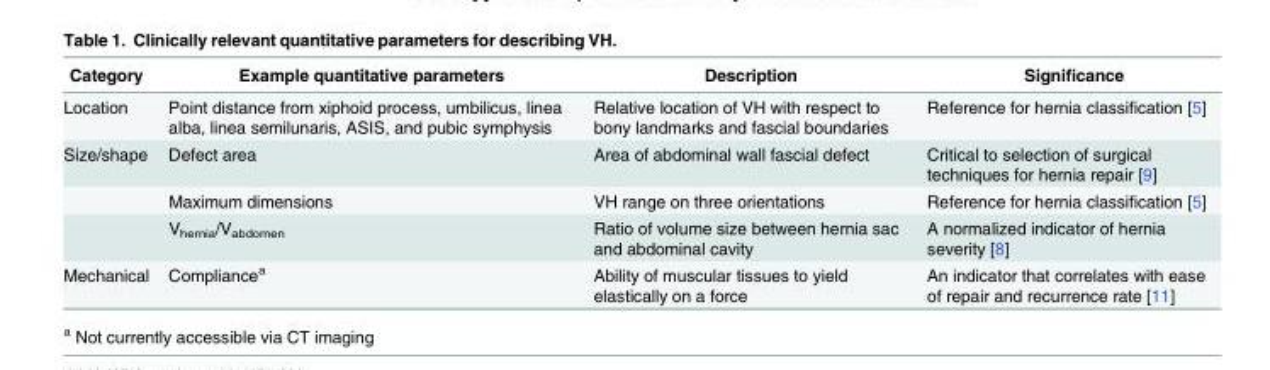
<table><thead><tr><td>Category</td><td>Example quantitative parameters</td><td>Description</td><td>Significance</td></tr></thead><tbody><tr><td>Location</td><td>Point distance from xiphoid process, umbilicus, linea alba, linea semilunaris, ASIS, and pubic symphysis</td><td>Relative location of VH with respect to bony landmarks and fascial boundaries</td><td>Reference for hernia classification [5]</td></tr><tr><td rowspan="3">Size/shape</td><td>Defect area</td><td>Area of abdominal wall fascial defect</td><td>Critical to selection of surgical techniques for hernia repair [9]</td></tr><tr><td>Maximum dimensions</td><td>VH range on three orientations</td><td>Reference for hernia classification [5]</td></tr><tr><td>V<sub>hernia</sub>/V<sub>abdomen</sub></td><td>Ratio of volume size between hernia sac and abdominal cavity</td><td>A normalized indicator of hernia severity [8]</td></tr><tr><td>Mechanical</td><td>Compliance<sup>a</sup></td><td>Ability of muscular tissues to yield elastically on a force</td><td>An indicator that correlates with ease of repair and recurrence rate [11]</td></tr></tbody></table>